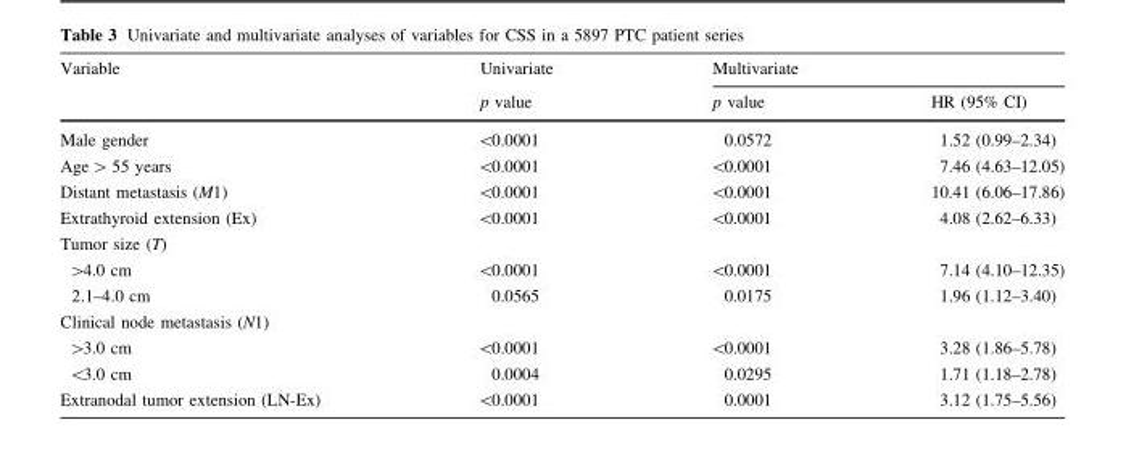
<table><thead><tr><td rowspan="2">Variable</td><td rowspan="2">Univariate p value</td><td colspan="2">Multivariate</td></tr><tr><td>p value</td><td>HR (95% CI)</td></tr></thead><tbody><tr><td>Male gender</td><td>&lt;0.0001</td><td>0.0572</td><td>1.52 (0.99–2.34)</td></tr><tr><td>Age &gt; 55 years</td><td>&lt;0.0001</td><td>&lt;0.0001</td><td>7.46 (4.63–12.05)</td></tr><tr><td>Distant metastasis (M1)</td><td>&lt;0.0001</td><td>&lt;0.0001</td><td>10.41 (6.06–17.86)</td></tr><tr><td>Extrathyroid extension (Ex)</td><td>&lt;0.0001</td><td>&lt;0.0001</td><td>4.08 (2.62–6.33)</td></tr><tr><td colspan="4">Tumor size (T)</td></tr><tr><td>&gt;4.0 cm</td><td>&lt;0.0001</td><td>&lt;0.0001</td><td>7.14 (4.10–12.35)</td></tr><tr><td>2.1–4.0 cm</td><td>0.0565</td><td>0.0175</td><td>1.96 (1.12–3.40)</td></tr><tr><td colspan="4">Clinical node metastasis (N1)</td></tr><tr><td>&gt;3.0 cm</td><td>&lt;0.0001</td><td>&lt;0.0001</td><td>3.28 (1.86–5.78)</td></tr><tr><td>&lt;3.0 cm</td><td>0.0004</td><td>0.0295</td><td>1.71 (1.18–2.78)</td></tr><tr><td>Extranodal tumor extension (LN-Ex)</td><td>&lt;0.0001</td><td>0.0001</td><td>3.12 (1.75–5.56)</td></tr></tbody></table>